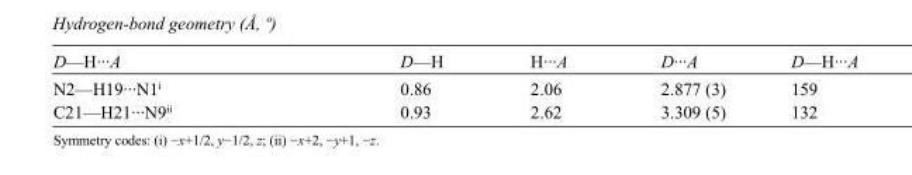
<table><tbody><tr><td>D—H···A</td><td>D—H</td><td>H···A</td><td>D···A</td><td>D—H···A</td></tr><tr><td>N2—H19···N1<sup>i</sup></td><td>0.86</td><td>2.06</td><td>2.877 (3)</td><td>159</td></tr><tr><td>C21—H21···N9<sup>ii</sup></td><td>0.93</td><td>2.62</td><td>3.309 (5)</td><td>132</td></tr></tbody></table>